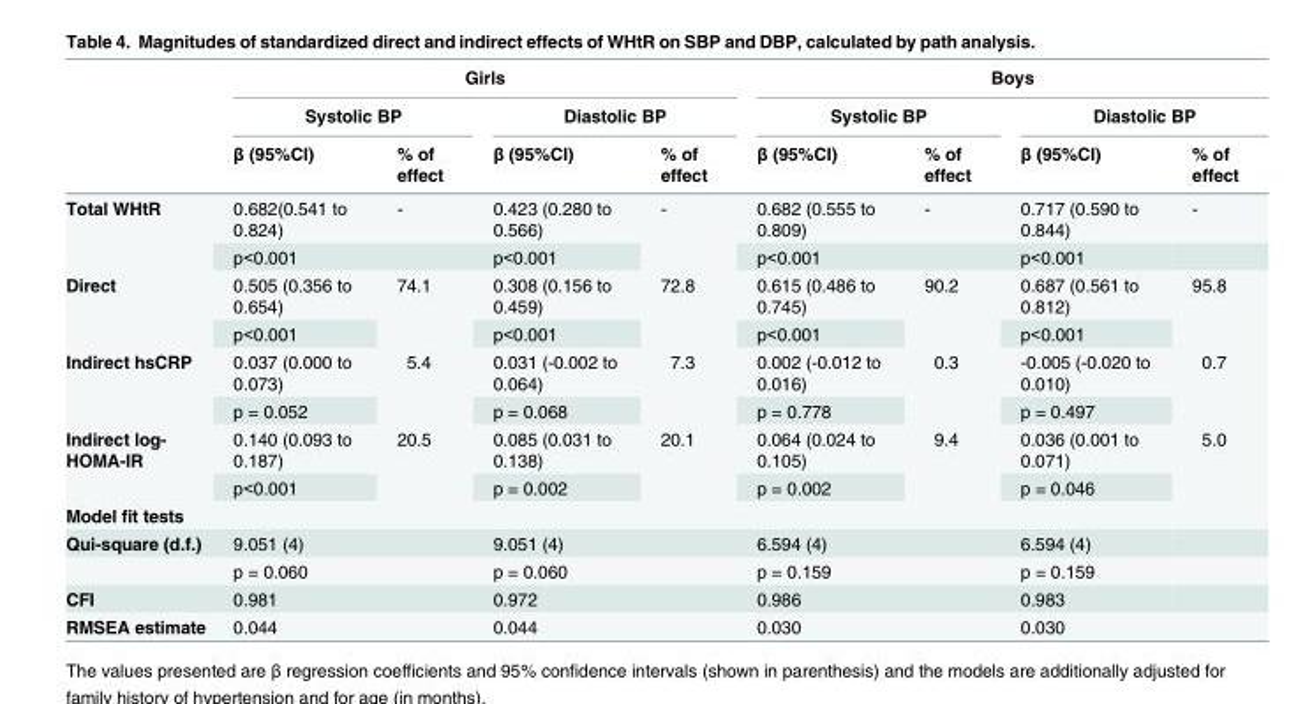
<table><thead><tr><td rowspan="3"></td><td colspan="4">Girls</td><td colspan="4">Boys</td></tr><tr><td colspan="2">Systolic BP</td><td colspan="2">Diastolic BP</td><td colspan="2">Systolic BP</td><td colspan="2">Diastolic BP</td></tr><tr><td>β (95%CI)</td><td>% of effect</td><td>β (95%CI)</td><td>% of effect</td><td>β (95%CI)</td><td>% of effect</td><td>β (95%CI)</td><td>% of effect</td></tr></thead><tbody><tr><td rowspan="2">Total WHtR</td><td>0.682(0.541 to 0.824)</td><td>-</td><td>0.423 (0.280 to 0.566)</td><td rowspan="2">-</td><td>0.682 (0.555 to 0.809)</td><td>-</td><td>0.717 (0.590 to 0.844)</td><td>-</td></tr><tr><td>p&lt;0.001</td><td></td><td>p&lt;0.001</td><td>p&lt;0.001</td><td></td><td>p&lt;0.001</td><td></td></tr><tr><td rowspan="2">Direct</td><td>0.505 (0.356 to 0.654)</td><td rowspan="2">74.1</td><td>0.308 (0.156 to 0.459)</td><td rowspan="2">72.8</td><td>0.615 (0.486 to 0.745)</td><td rowspan="2">90.2</td><td>0.687 (0.561 to 0.812)</td><td rowspan="2">95.8</td></tr><tr><td>p&lt;0.001</td><td>p&lt;0.001</td><td>p&lt;0.001</td><td>p&lt;0.001</td></tr><tr><td rowspan="2">Indirect hsCRP</td><td>0.037 (0.000 to 0.073)</td><td rowspan="2">5.4</td><td>0.031 (-0.002 to 0.064)</td><td rowspan="2">7.3</td><td>0.002 (-0.012 to 0.016)</td><td rowspan="2">0.3</td><td>-0.005 (-0.020 to 0.010)</td><td rowspan="2">0.7</td></tr><tr><td>p = 0.052</td><td>p = 0.068</td><td>p = 0.778</td><td>p = 0.497</td></tr><tr><td rowspan="2">Indirect log- HOMA-IR</td><td>0.140 (0.093 to 0.187)</td><td rowspan="2">20.5</td><td>0.085 (0.031 to 0.138)</td><td rowspan="2">20.1</td><td>0.064 (0.024 to 0.105)</td><td rowspan="2">9.4</td><td>0.036 (0.001 to 0.071)</td><td rowspan="2">5.0</td></tr><tr><td>p&lt;0.001</td><td>p = 0.002</td><td>p = 0.002</td><td>p = 0.046</td></tr><tr><td colspan="9">Model fit tests</td></tr><tr><td rowspan="2">Qui-square (d.f.)</td><td>9.051 (4)</td><td></td><td>9.051 (4)</td><td></td><td>6.594 (4)</td><td></td><td>6.594 (4)</td><td></td></tr><tr><td>p = 0.060</td><td></td><td>p = 0.060</td><td></td><td>p = 0.159</td><td></td><td>p = 0.159</td><td></td></tr><tr><td>CFI</td><td>0.981</td><td></td><td>0.972</td><td></td><td>0.986</td><td></td><td>0.983</td><td></td></tr><tr><td>RMSEA estimate</td><td>0.044</td><td></td><td>0.044</td><td></td><td>0.030</td><td></td><td>0.030</td><td></td></tr></tbody></table>